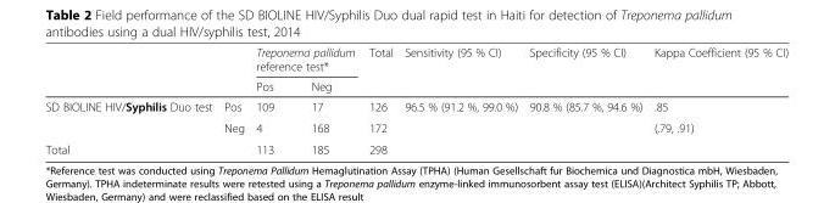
<table><thead><tr><td rowspan="2"></td><td rowspan="2"></td><td colspan="2">Treponema pallidum reference test*</td><td rowspan="2">Total</td><td rowspan="2">Sensitivity (95 % CI)</td><td rowspan="2">Specificity (95 % CI)</td><td rowspan="2">Kappa Coefficient (95 % CI)</td></tr><tr><td>Pos</td><td>Neg</td></tr></thead><tbody><tr><td rowspan="2">SD BIOLINE HIV/Syphilis Duo test</td><td>Pos</td><td>109</td><td>17</td><td>126</td><td>96.5 % (91.2 %, 99.0 %)</td><td>90.8 % (85.7 %, 94.6 %)</td><td>.85</td></tr><tr><td>Neg</td><td>4</td><td>168</td><td>172</td><td></td><td></td><td>(.79, .91)</td></tr><tr><td colspan="2">Total</td><td>113</td><td>185</td><td>298</td><td></td><td></td><td></td></tr></tbody></table>